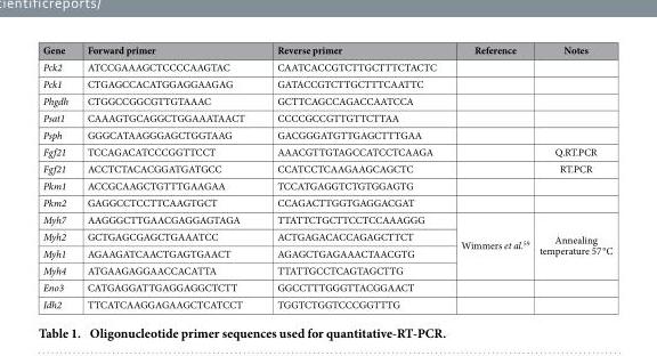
<table><thead><tr><td>Gene</td><td>Forward primer</td><td>Reverse primer</td><td>Reference</td><td>Notes</td></tr></thead><tbody><tr><td>Pck2</td><td>ATCCGAAAGCTCCCCAAGTAC</td><td>CAATCACCGTCTTGCTTTCTACTC</td><td></td><td></td></tr><tr><td>Pck1</td><td>CTGAGCCACATGGAGGAAGAG</td><td>GATACCGTCTTGCTTTCAATTC</td><td></td><td></td></tr><tr><td>Phgdh</td><td>CTGGCCGGCGTTGTAAAC</td><td>GCTTCAGCCAGACCAATCCA</td><td></td><td></td></tr><tr><td>Psat1</td><td>CAAAGTGCAGGCTGGAAATAACT</td><td>CCCCGCCGTTGTTCTTAA</td><td></td><td></td></tr><tr><td>Psph</td><td>GGGCATAAGGGAGCTGGTAAG</td><td>GACGGGATGTTGAGCTTTGAA</td><td></td><td></td></tr><tr><td>Fgf21</td><td>TCCAGACATCCCGGTTCCT</td><td>AAACGTTGTAGCCATCCTCAAGA</td><td></td><td>Q.RT.PCR</td></tr><tr><td>Fgf21</td><td>ACCTCTACACGGATGATGCC</td><td>CCATCCTCAAGAAGCAGCTC</td><td></td><td>RT.PCR</td></tr><tr><td>Pkm1</td><td>ACCGCAAGCTGTTTGAAGAA</td><td>TCCATGAGGTCTGTGGAGTG</td><td></td><td></td></tr><tr><td>Pkm2</td><td>GAGGCCTCCTTCAAGTGCT</td><td>CCAGACTTGGTGAGGACGAT</td><td></td><td></td></tr><tr><td>Myh7</td><td>AAGGGCTTGAACGAGGAGTAGA</td><td>TTATTCTGCTTCCTCCAAAGGG</td><td rowspan="4">Wimmers et al.<sup>59</sup></td><td rowspan="4">Annealing temperature 57 °C</td></tr><tr><td>Myh2</td><td>GCTGAGCGAGCTGAAATCC</td><td>ACTGAGACACCAGAGCTTCT</td></tr><tr><td>Myh1</td><td>AGAAGATCAACTGAGTGAACT</td><td>AGAGCTGAGAAACTAACGTG</td></tr><tr><td>Myh4</td><td>ATGAAGAGGAACCACATTA</td><td>TTATTGCCTCAGTAGCTTG</td></tr><tr><td>Eno3</td><td>CATGAGGATTGAGGAGGCTCTT</td><td>GGCCTTTGGGTTACGGAACT</td><td></td><td></td></tr><tr><td>Idh2</td><td>TTCATCAAGGAGAAGCTCATCCT</td><td>TGGTCTGGTCCCGGTTTG</td><td></td><td></td></tr></tbody></table>